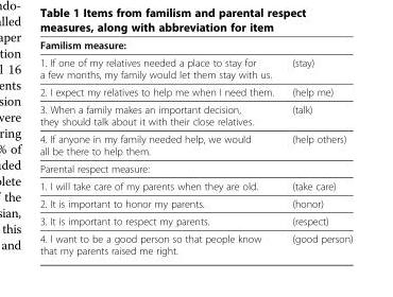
<table><thead><tr><td colspan="2">Familism measure:</td></tr><tr><td>1. If one of my relatives needed a place to stay for a few months, my family would let them stay with us.</td><td>(stay)</td></tr></thead><tbody><tr><td>2. I expect my relatives to help me when I need them.</td><td>(help me)</td></tr><tr><td>3. When a family makes an important decision, they should talk about it with their close relatives.</td><td>(talk)</td></tr><tr><td>4. If anyone in my family needed help, we would all be there to help them.</td><td>(help others)</td></tr><tr><td colspan="2">Parental respect measure:</td></tr><tr><td>1. I will take care of my parents when they are old.</td><td>(take care)</td></tr><tr><td>2. It is important to honor my parents.</td><td>(honor)</td></tr><tr><td>3. It is important to respect my parents.</td><td>(respect)</td></tr><tr><td>4. I want to be a good person so that people know that my parents raised me right.</td><td>(good person)</td></tr></tbody></table>